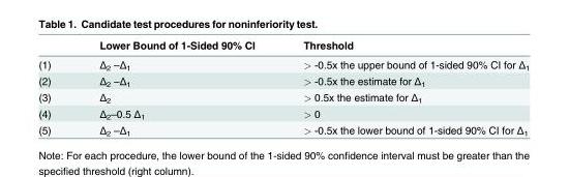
<table><thead><tr><td></td><td>Lower Bound of 1-Sided 90% CI</td><td>Threshold</td></tr></thead><tbody><tr><td>(1)</td><td>Δ<sub>2</sub> –Δ<sub>1</sub></td><td>&gt; -0.5x the upper bound of 1-sided 90% CI for Δ<sub>1</sub></td></tr><tr><td>(2)</td><td>Δ<sub>2</sub> –Δ<sub>1</sub></td><td>&gt; -0.5x the estimate for Δ<sub>1</sub></td></tr><tr><td>(3)</td><td>Δ<sub>2</sub></td><td>&gt; 0.5x the estimate for Δ<sub>1</sub></td></tr><tr><td>(4)</td><td>Δ<sub>2</sub>–0.5 Δ<sub>1</sub></td><td>&gt; 0</td></tr><tr><td>(5)</td><td>Δ<sub>2</sub> –Δ<sub>1</sub></td><td>&gt; -0.5x the lower bound of 1-sided 90% CI for Δ<sub>1</sub></td></tr></tbody></table>